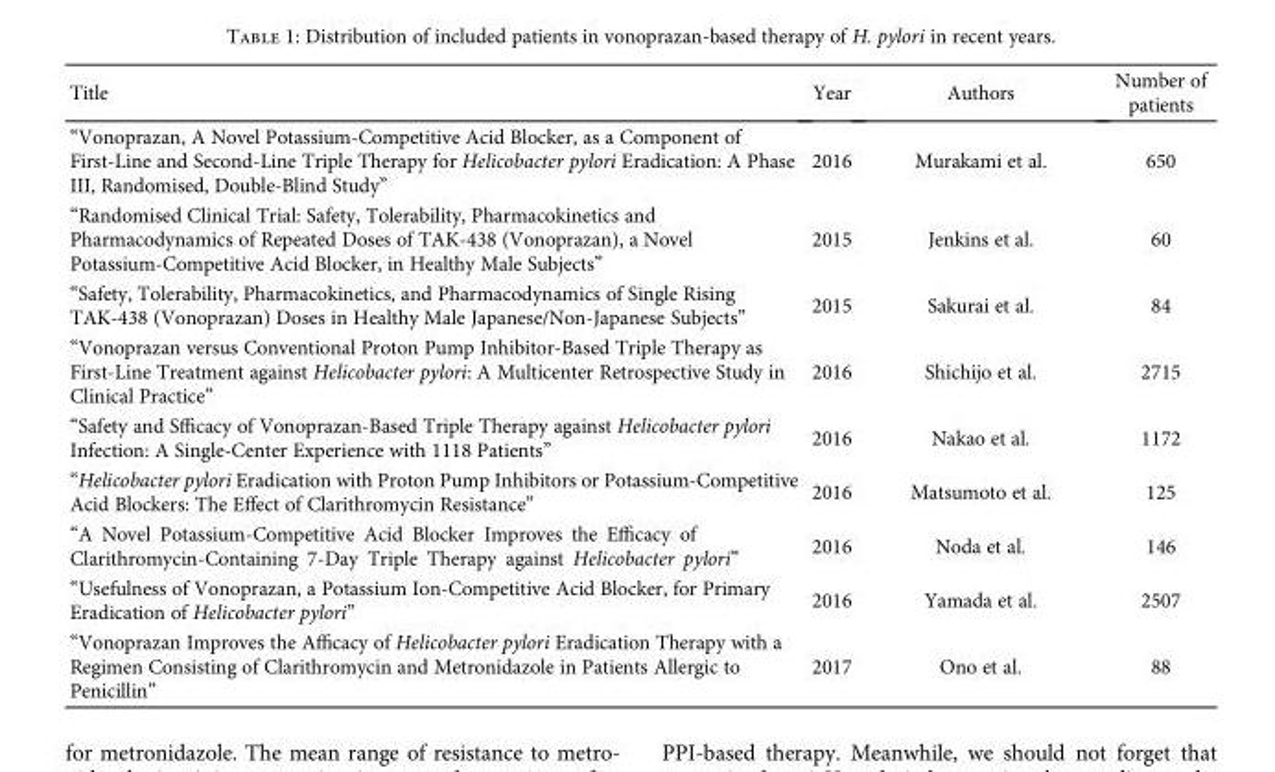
<table><thead><tr><td>Title</td><td>Year</td><td>Authors</td><td>Number of patients</td></tr></thead><tbody><tr><td>“Vonoprazan, A Novel Potassium-Competitive Acid Blocker, as a Component of First-Line and Second-Line Triple Therapy for Helicobacter pylori Eradication: A Phase III, Randomised, Double-Blind Study”</td><td>2016</td><td>Murakami et al.</td><td>650</td></tr><tr><td>“Randomised Clinical Trial: Safety, Tolerability, Pharmacokinetics and Pharmacodynamics of Repeated Doses of TAK-438 (Vonoprazan), a Novel Potassium-Competitive Acid Blocker, in Healthy Male Subjects”</td><td>2015</td><td>Jenkins et al.</td><td>60</td></tr><tr><td>“Safety, Tolerability, Pharmacokinetics, and Pharmacodynamics of Single Rising TAK-438 (Vonoprazan) Doses in Healthy Male Japanese/Non-Japanese Subjects”</td><td>2015</td><td>Sakurai et al.</td><td>84</td></tr><tr><td>“Vonoprazan versus Conventional Proton Pump Inhibitor-Based Triple Therapy as First-Line Treatment against Helicobacter pylori: A Multicenter Retrospective Study in Clinical Practice”</td><td>2016</td><td>Shichijo et al.</td><td>2715</td></tr><tr><td>“Safety and Sfficacy of Vonoprazan-Based Triple Therapy against Helicobacter pylori Infection: A Single-Center Experience with 1118 Patients”</td><td>2016</td><td>Nakao et al.</td><td>1172</td></tr><tr><td>“Helicobacter pylori Eradication with Proton Pump Inhibitors or Potassium-Competitive Acid Blockers: The Effect of Clarithromycin Resistance”</td><td>2016</td><td>Matsumoto et al.</td><td>125</td></tr><tr><td>“A Novel Potassium-Competitive Acid Blocker Improves the Efficacy of Clarithromycin-Containing 7-Day Triple Therapy against Helicobacter pylori”</td><td>2016</td><td>Noda et al.</td><td>146</td></tr><tr><td>“Usefulness of Vonoprazan, a Potassium Ion-Competitive Acid Blocker, for Primary Eradication of Helicobacter pylori”</td><td>2016</td><td>Yamada et al.</td><td>2507</td></tr><tr><td>“Vonoprazan Improves the Afficacy of Helicobacter pylori Eradication Therapy with a Regimen Consisting of Clarithromycin and Metronidazole in Patients Allergic to Penicillin”</td><td>2017</td><td>Ono et al.</td><td>88</td></tr></tbody></table>